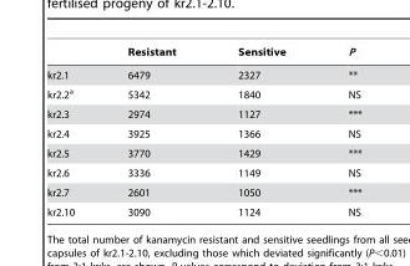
<table><thead><tr><td></td><td>Resistant</td><td>Sensitive</td><td>P</td></tr></thead><tbody><tr><td>kr2.1</td><td>6479</td><td>2327</td><td>**</td></tr><tr><td>kr2.2<sup>a</sup></td><td>5342</td><td>1840</td><td>NS</td></tr><tr><td>kr2.3</td><td>2974</td><td>1127</td><td>***</td></tr><tr><td>kr2.4</td><td>3925</td><td>1366</td><td>NS</td></tr><tr><td>kr2.5</td><td>3770</td><td>1429</td><td>***</td></tr><tr><td>kr2.6</td><td>3336</td><td>1149</td><td>NS</td></tr><tr><td>kr2.7</td><td>2601</td><td>1050</td><td>***</td></tr><tr><td>kr2.10</td><td>3090</td><td>1124</td><td>NS</td></tr></tbody></table>